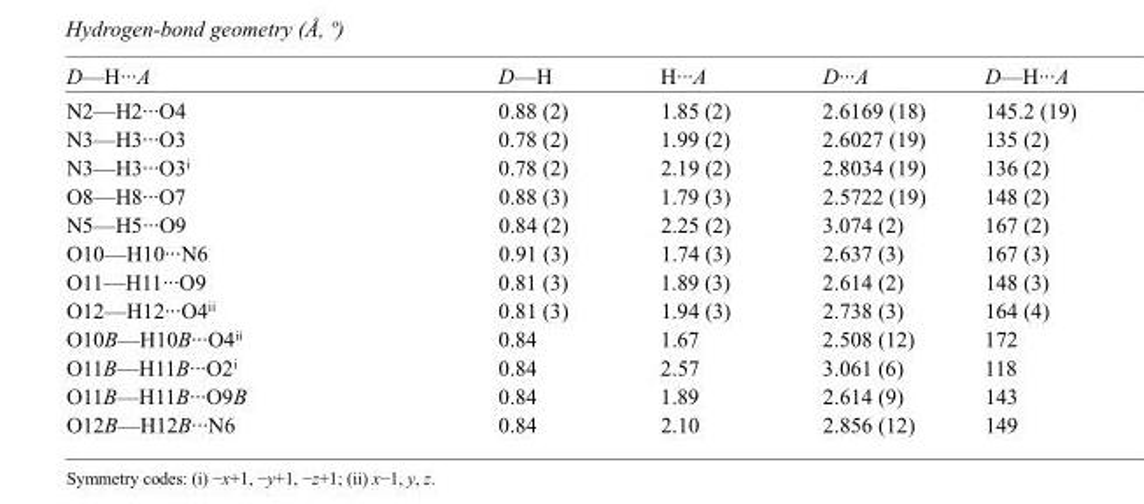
<table><tbody><tr><td>D—H···A</td><td>D—H</td><td>H···A</td><td>D···A</td><td>D—H···A</td></tr><tr><td>N2—H2···O4</td><td>0.88 (2)</td><td>1.85 (2)</td><td>2.6169 (18)</td><td>145.2 (19)</td></tr><tr><td>N3—H3···O3</td><td>0.78 (2)</td><td>1.99 (2)</td><td>2.6027 (19)</td><td>135 (2)</td></tr><tr><td>N3—H3···O3<sup>i</sup></td><td>0.78 (2)</td><td>2.19 (2)</td><td>2.8034 (19)</td><td>136 (2)</td></tr><tr><td>O8—H8···O7</td><td>0.88 (3)</td><td>1.79 (3)</td><td>2.5722 (19)</td><td>148 (2)</td></tr><tr><td>N5—H5···O9</td><td>0.84 (2)</td><td>2.25 (2)</td><td>3.074 (2)</td><td>167 (2)</td></tr><tr><td>O10—H10···N6</td><td>0.91 (3)</td><td>1.74 (3)</td><td>2.637 (3)</td><td>167 (3)</td></tr><tr><td>O11—H11···O9</td><td>0.81 (3)</td><td>1.89 (3)</td><td>2.614 (2)</td><td>148 (3)</td></tr><tr><td>O12—H12···O4<sup>ii</sup></td><td>0.81 (3)</td><td>1.94 (3)</td><td>2.738 (3)</td><td>164 (4)</td></tr><tr><td>O10B—H10B···O4<sup>ii</sup></td><td>0.84</td><td>1.67</td><td>2.508 (12)</td><td>172</td></tr><tr><td>O11B—H11B···O2<sup>i</sup></td><td>0.84</td><td>2.57</td><td>3.061 (6)</td><td>118</td></tr><tr><td>O11B—H11B···O9B</td><td>0.84</td><td>1.89</td><td>2.614 (9)</td><td>143</td></tr><tr><td>O12B—H12B···N6</td><td>0.84</td><td>2.10</td><td>2.856 (12)</td><td>149</td></tr></tbody></table>